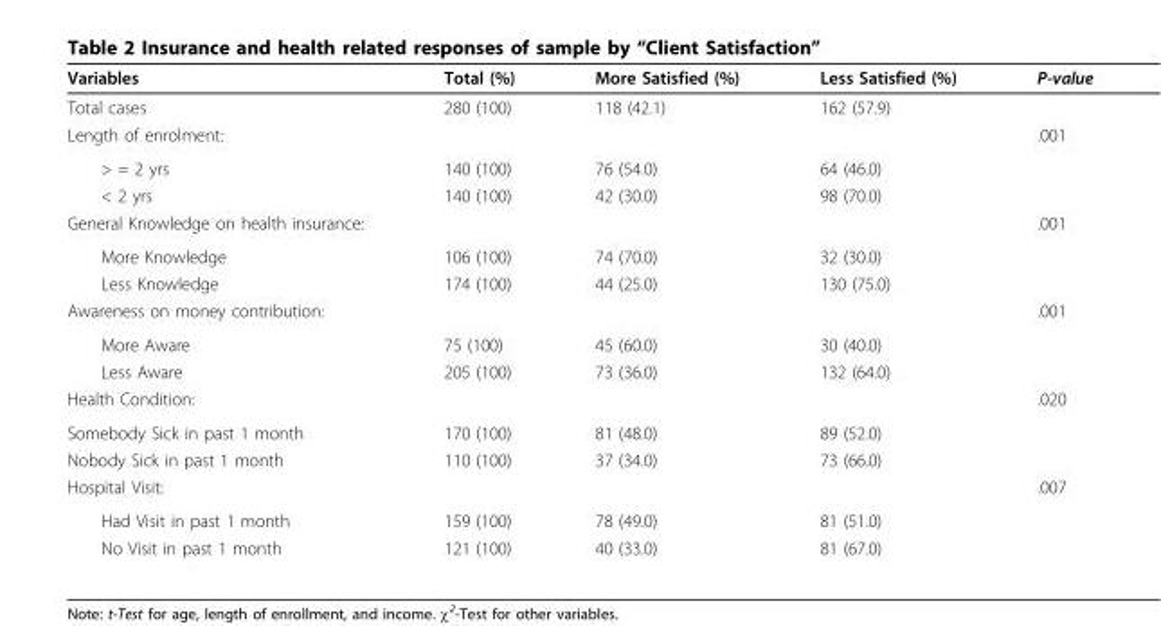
<table><thead><tr><td>Variables</td><td>Total (%)</td><td>More Satisfied (%)</td><td>Less Satisfied (%)</td><td>P-value</td></tr></thead><tbody><tr><td>Total cases</td><td>280 (100)</td><td>118 (42.1)</td><td>162 (57.9)</td><td></td></tr><tr><td>Length of enrolment:</td><td></td><td></td><td></td><td>.001</td></tr><tr><td>&gt; = 2 yrs</td><td>140 (100)</td><td>76 (54.0)</td><td>64 (46.0)</td><td></td></tr><tr><td>&lt; 2 yrs</td><td>140 (100)</td><td>42 (30.0)</td><td>98 (70.0)</td><td></td></tr><tr><td>General Knowledge on health insurance:</td><td></td><td></td><td></td><td>.001</td></tr><tr><td>More Knowledge</td><td>106 (100)</td><td>74 (70.0)</td><td>32 (30.0)</td><td></td></tr><tr><td>Less Knowledge</td><td>174 (100)</td><td>44 (25.0)</td><td>130 (75.0)</td><td></td></tr><tr><td>Awareness on money contribution:</td><td></td><td></td><td></td><td>.001</td></tr><tr><td>More Aware</td><td>75 (100)</td><td>45 (60.0)</td><td>30 (40.0)</td><td></td></tr><tr><td>Less Aware</td><td>205 (100)</td><td>73 (36.0)</td><td>132 (64.0)</td><td></td></tr><tr><td>Health Condition:</td><td></td><td></td><td></td><td>.020</td></tr><tr><td>Somebody Sick in past 1 month</td><td>170 (100)</td><td>81 (48.0)</td><td>89 (52.0)</td><td></td></tr><tr><td>Nobody Sick in past 1 month</td><td>110 (100)</td><td>37 (34.0)</td><td>73 (66.0)</td><td></td></tr><tr><td>Hospital Visit:</td><td></td><td></td><td></td><td>.007</td></tr><tr><td>Had Visit in past 1 month</td><td>159 (100)</td><td>78 (49.0)</td><td>81 (51.0)</td><td></td></tr><tr><td>No Visit in past 1 month</td><td>121 (100)</td><td>40 (33.0)</td><td>81 (67.0)</td><td></td></tr></tbody></table>